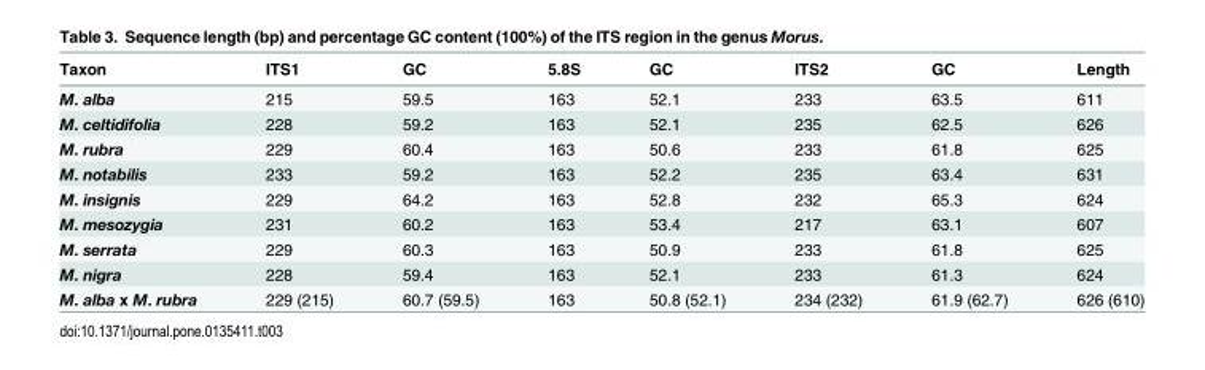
<table><thead><tr><td>Taxon</td><td>ITS1</td><td>GC</td><td>5.8S</td><td>GC</td><td>ITS2</td><td>GC</td><td>Length</td></tr></thead><tbody><tr><td>M. alba</td><td>215</td><td>59.5</td><td>163</td><td>52.1</td><td>233</td><td>63.5</td><td>611</td></tr><tr><td>M. celtidifolia</td><td>228</td><td>59.2</td><td>163</td><td>52.1</td><td>235</td><td>62.5</td><td>626</td></tr><tr><td>M. rubra</td><td>229</td><td>60.4</td><td>163</td><td>50.6</td><td>233</td><td>61.8</td><td>625</td></tr><tr><td>M. notabilis</td><td>233</td><td>59.2</td><td>163</td><td>52.2</td><td>235</td><td>63.4</td><td>631</td></tr><tr><td>M. insignis</td><td>229</td><td>64.2</td><td>163</td><td>52.8</td><td>232</td><td>65.3</td><td>624</td></tr><tr><td>M. mesozygia</td><td>231</td><td>60.2</td><td>163</td><td>53.4</td><td>217</td><td>63.1</td><td>607</td></tr><tr><td>M. serrata</td><td>229</td><td>60.3</td><td>163</td><td>50.9</td><td>233</td><td>61.8</td><td>625</td></tr><tr><td>M. nigra</td><td>228</td><td>59.4</td><td>163</td><td>52.1</td><td>233</td><td>61.3</td><td>624</td></tr><tr><td>M. alba x M. rubra</td><td>229 (215)</td><td>60.7 (59.5)</td><td>163</td><td>50.8 (52.1)</td><td>234 (232)</td><td>61.9 (62.7)</td><td>626 (610)</td></tr></tbody></table>